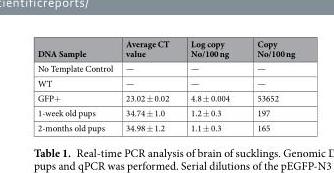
<table><thead><tr><td>DNA Sample</td><td>Average CT value</td><td>Log copy No/100 ng</td><td>Copy No/100 ng</td></tr></thead><tbody><tr><td>No Template Control</td><td>—</td><td>—</td><td>—</td></tr><tr><td>WT</td><td>—</td><td>—</td><td>—</td></tr><tr><td>GFP+</td><td>23.02 ± 0.02</td><td>4.8 ± 0.004</td><td>53652</td></tr><tr><td>1-week old pups</td><td>34.74 ± 1.0</td><td>1.2 ± 0.3</td><td>197</td></tr><tr><td>2-months old pups</td><td>34.98 ± 1.2</td><td>1.1 ± 0.3</td><td>165</td></tr></tbody></table>